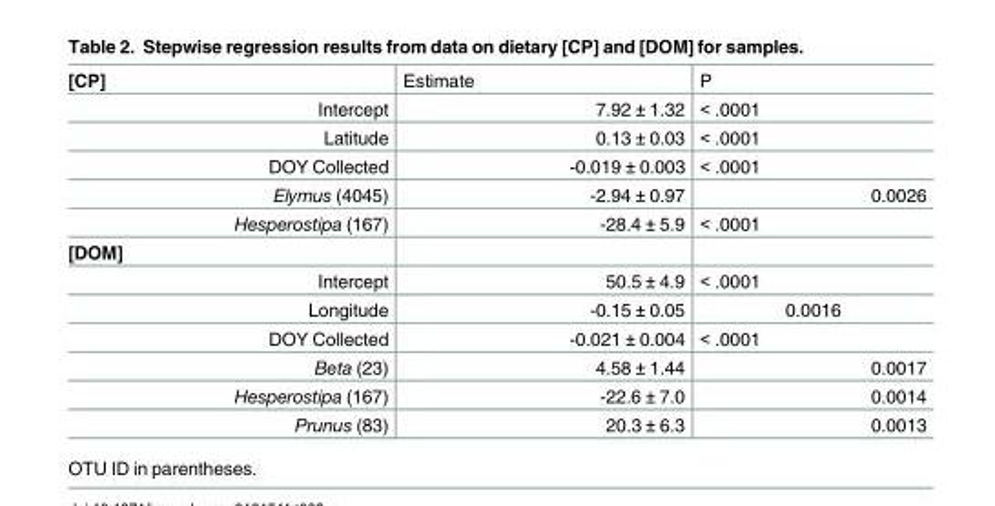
<table><tbody><tr><td>[CP]</td><td>Estimate</td><td>P</td></tr><tr><td>Intercept</td><td>7.92 ± 1.32</td><td>&lt; .0001</td></tr><tr><td>Latitude</td><td>0.13 ± 0.03</td><td>&lt; .0001</td></tr><tr><td>DOY Collected</td><td>-0.019 ± 0.003</td><td>&lt; .0001</td></tr><tr><td>Elymus (4045)</td><td>-2.94 ± 0.97</td><td>0.0026</td></tr><tr><td>Hesperostipa (167)</td><td>-28.4 ± 5.9</td><td>&lt; .0001</td></tr><tr><td colspan="3">[DOM]</td></tr><tr><td>Intercept</td><td>50.5 ± 4.9</td><td>&lt; .0001</td></tr><tr><td>Longitude</td><td>-0.15 ± 0.05</td><td>0.0016</td></tr><tr><td>DOY Collected</td><td>-0.021 ± 0.004</td><td>&lt; .0001</td></tr><tr><td>Beta (23)</td><td>4.58 ± 1.44</td><td>0.0017</td></tr><tr><td>Hesperostipa (167)</td><td>-22.6 ± 7.0</td><td>0.0014</td></tr><tr><td>Prunus (83)</td><td>20.3 ± 6.3</td><td>0.0013</td></tr></tbody></table>